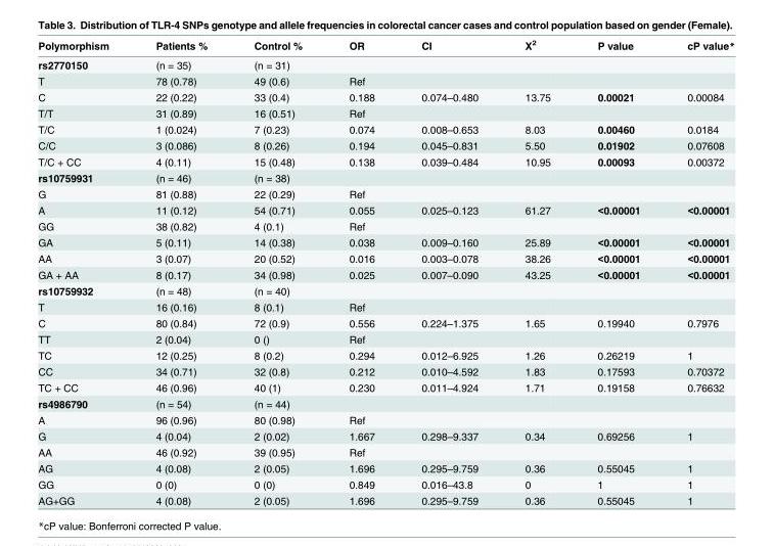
<table><thead><tr><td>Polymorphism</td><td>Patients %</td><td>Control %</td><td>OR</td><td>CI</td><td>X<sup>2</sup></td><td>P value</td><td>cP value*</td></tr></thead><tbody><tr><td>rs2770150</td><td>(n = 35)</td><td>(n = 31)</td><td></td><td></td><td></td><td></td><td></td></tr><tr><td>T</td><td>78 (0.78)</td><td>49 (0.6)</td><td>Ref</td><td></td><td></td><td></td><td></td></tr><tr><td>C</td><td>22 (0.22)</td><td>33 (0.4)</td><td>0.188</td><td>0.074–0.480</td><td>13.75</td><td>0.00021</td><td>0.00084</td></tr><tr><td>T/T</td><td>31 (0.89)</td><td>16 (0.51)</td><td>Ref</td><td></td><td></td><td></td><td></td></tr><tr><td>T/C</td><td>1 (0.024)</td><td>7 (0.23)</td><td>0.074</td><td>0.008–0.653</td><td>8.03</td><td>0.00460</td><td>0.0184</td></tr><tr><td>C/C</td><td>3 (0.086)</td><td>8 (0.26)</td><td>0.194</td><td>0.045–0.831</td><td>5.50</td><td>0.01902</td><td>0.07608</td></tr><tr><td>T/C + CC</td><td>4 (0.11)</td><td>15 (0.48)</td><td>0.138</td><td>0.039–0.484</td><td>10.95</td><td>0.00093</td><td>0.00372</td></tr><tr><td>rs10759931</td><td>(n = 46)</td><td>(n = 38)</td><td></td><td></td><td></td><td></td><td></td></tr><tr><td>G</td><td>81 (0.88)</td><td>22 (0.29)</td><td>Ref</td><td></td><td></td><td></td><td></td></tr><tr><td>A</td><td>11 (0.12)</td><td>54 (0.71)</td><td>0.055</td><td>0.025–0.123</td><td>61.27</td><td>&lt;0.00001</td><td>&lt;0.00001</td></tr><tr><td>GG</td><td>38 (0.82)</td><td>4 (0.1)</td><td>Ref</td><td></td><td></td><td></td><td></td></tr><tr><td>GA</td><td>5 (0.11)</td><td>14 (0.38)</td><td>0.038</td><td>0.009–0.160</td><td>25.89</td><td>&lt;0.00001</td><td>&lt;0.00001</td></tr><tr><td>AA</td><td>3 (0.07)</td><td>20 (0.52)</td><td>0.016</td><td>0.003–0.078</td><td>38.26</td><td>&lt;0.00001</td><td>&lt;0.00001</td></tr><tr><td>GA + AA</td><td>8 (0.17)</td><td>34 (0.98)</td><td>0.025</td><td>0.007–0.090</td><td>43.25</td><td>&lt;0.00001</td><td>&lt;0.00001</td></tr><tr><td>rs10759932</td><td>(n = 48)</td><td>(n = 40)</td><td></td><td></td><td></td><td></td><td></td></tr><tr><td>T</td><td>16 (0.16)</td><td>8 (0.1)</td><td>Ref</td><td></td><td></td><td></td><td></td></tr><tr><td>C</td><td>80 (0.84)</td><td>72 (0.9)</td><td>0.556</td><td>0.224–1.375</td><td>1.65</td><td>0.19940</td><td>0.7976</td></tr><tr><td>TT</td><td>2 (0.04)</td><td>0 ()</td><td>Ref</td><td></td><td></td><td></td><td></td></tr><tr><td>TC</td><td>12 (0.25)</td><td>8 (0.2)</td><td>0.294</td><td>0.012–6.925</td><td>1.26</td><td>0.26219</td><td>1</td></tr><tr><td>CC</td><td>34 (0.71)</td><td>32 (0.8)</td><td>0.212</td><td>0.010–4.592</td><td>1.83</td><td>0.17593</td><td>0.70372</td></tr><tr><td>TC + CC</td><td>46 (0.96)</td><td>40 (1)</td><td>0.230</td><td>0.011–4.924</td><td>1.71</td><td>0.19158</td><td>0.76632</td></tr><tr><td>rs4986790</td><td>(n = 54)</td><td>(n = 44)</td><td></td><td></td><td></td><td></td><td></td></tr><tr><td>A</td><td>96 (0.96)</td><td>80 (0.98)</td><td>Ref</td><td></td><td></td><td></td><td></td></tr><tr><td>G</td><td>4 (0.04)</td><td>2 (0.02)</td><td>1.667</td><td>0.298–9.337</td><td>0.34</td><td>0.69256</td><td>1</td></tr><tr><td>AA</td><td>46 (0.92)</td><td>39 (0.95)</td><td>Ref</td><td></td><td></td><td></td><td></td></tr><tr><td>AG</td><td>4 (0.08)</td><td>2 (0.05)</td><td>1.696</td><td>0.295–9.759</td><td>0.36</td><td>0.55045</td><td>1</td></tr><tr><td>GG</td><td>0 (0)</td><td>0 (0)</td><td>0.849</td><td>0.016–43.8</td><td>0</td><td>1</td><td>1</td></tr><tr><td>AG+GG</td><td>4 (0.08)</td><td>2 (0.05)</td><td>1.696</td><td>0.295–9.759</td><td>0.36</td><td>0.55045</td><td>1</td></tr></tbody></table>